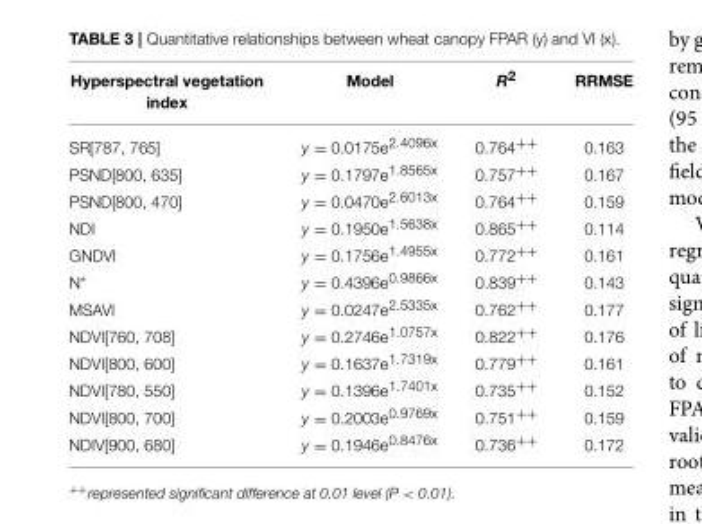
<table><thead><tr><td>Hyperspectral vegetation index</td><td>Model</td><td>R<sup>2</sup></td><td>RRMSE</td></tr></thead><tbody><tr><td>SR[787, 765]</td><td>y = 0.0175e<sup>2.4096x</sup></td><td>0.764<sup>++</sup></td><td>0.163</td></tr><tr><td>PSND[800, 635]</td><td>y = 0.1797e<sup>1.8565x</sup></td><td>0.757<sup>++</sup></td><td>0.167</td></tr><tr><td>PSND[800, 470]</td><td>y = 0.0470e<sup>2.6013x</sup></td><td>0.764<sup>++</sup></td><td>0.159</td></tr><tr><td>NDI</td><td>y = 0.1950e<sup>1.5638x</sup></td><td>0.865<sup>++</sup></td><td>0.114</td></tr><tr><td>GNDVI</td><td>y = 0.1756e<sup>1.4955x</sup></td><td>0.772<sup>++</sup></td><td>0.161</td></tr><tr><td>N*</td><td>y = 0.4396e<sup>0.9866x</sup></td><td>0.839<sup>++</sup></td><td>0.143</td></tr><tr><td>MSAVI</td><td>y = 0.0247e<sup>2.5335x</sup></td><td>0.762<sup>++</sup></td><td>0.177</td></tr><tr><td>NDVI[760, 708]</td><td>y = 0.2746e<sup>1.0757x</sup></td><td>0.822<sup>++</sup></td><td>0.176</td></tr><tr><td>NDVI[800, 600]</td><td>y = 0.1637e<sup>1.7319x</sup></td><td>0.779<sup>++</sup></td><td>0.161</td></tr><tr><td>NDVI[780, 550]</td><td>y = 0.1396e<sup>1.7401x</sup></td><td>0.735<sup>++</sup></td><td>0.152</td></tr><tr><td>NDVI[800, 700]</td><td>y = 0.2003e<sup>0.9769x</sup></td><td>0.751<sup>++</sup></td><td>0.159</td></tr><tr><td>NDIV[900, 680]</td><td>y = 0.1946e<sup>0.8476x</sup></td><td>0.736<sup>++</sup></td><td>0.172</td></tr></tbody></table>